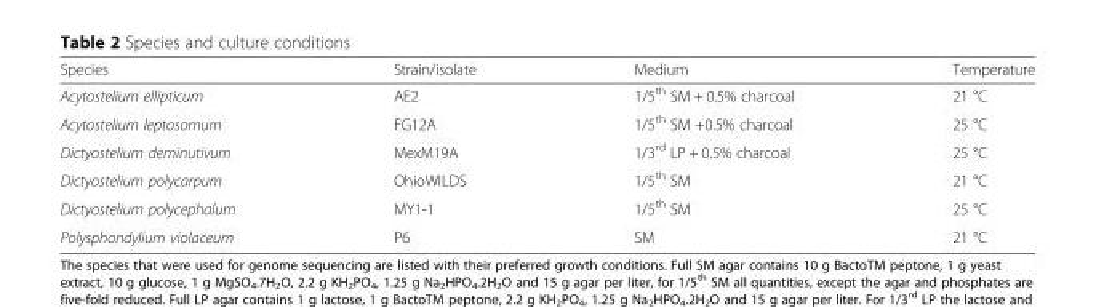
<table><thead><tr><td>Species</td><td>Strain/isolate</td><td>Medium</td><td>Temperature</td></tr></thead><tbody><tr><td>Acytostelium ellipticum</td><td>AE2</td><td>1/5<sup>th</sup> SM + 0.5% charcoal</td><td>21 °C</td></tr><tr><td>Acytostelium leptosomum</td><td>FG12A</td><td>1/5<sup>th</sup> SM +0.5% charcoal</td><td>25 °C</td></tr><tr><td>Dictyostelium deminutivum</td><td>MexM19A</td><td>1/3<sup>rd</sup> LP + 0.5% charcoal</td><td>25 °C</td></tr><tr><td>Dictyostelium polycarpum</td><td>OhioWILDS</td><td>1/5<sup>th</sup> SM</td><td>21 °C</td></tr><tr><td>Dictyostelium polycephalum</td><td>MY1-1</td><td>1/5<sup>th</sup> SM</td><td>25 °C</td></tr><tr><td>Polysphondylium violaceum</td><td>P6</td><td>SM</td><td>21 °C</td></tr></tbody></table>